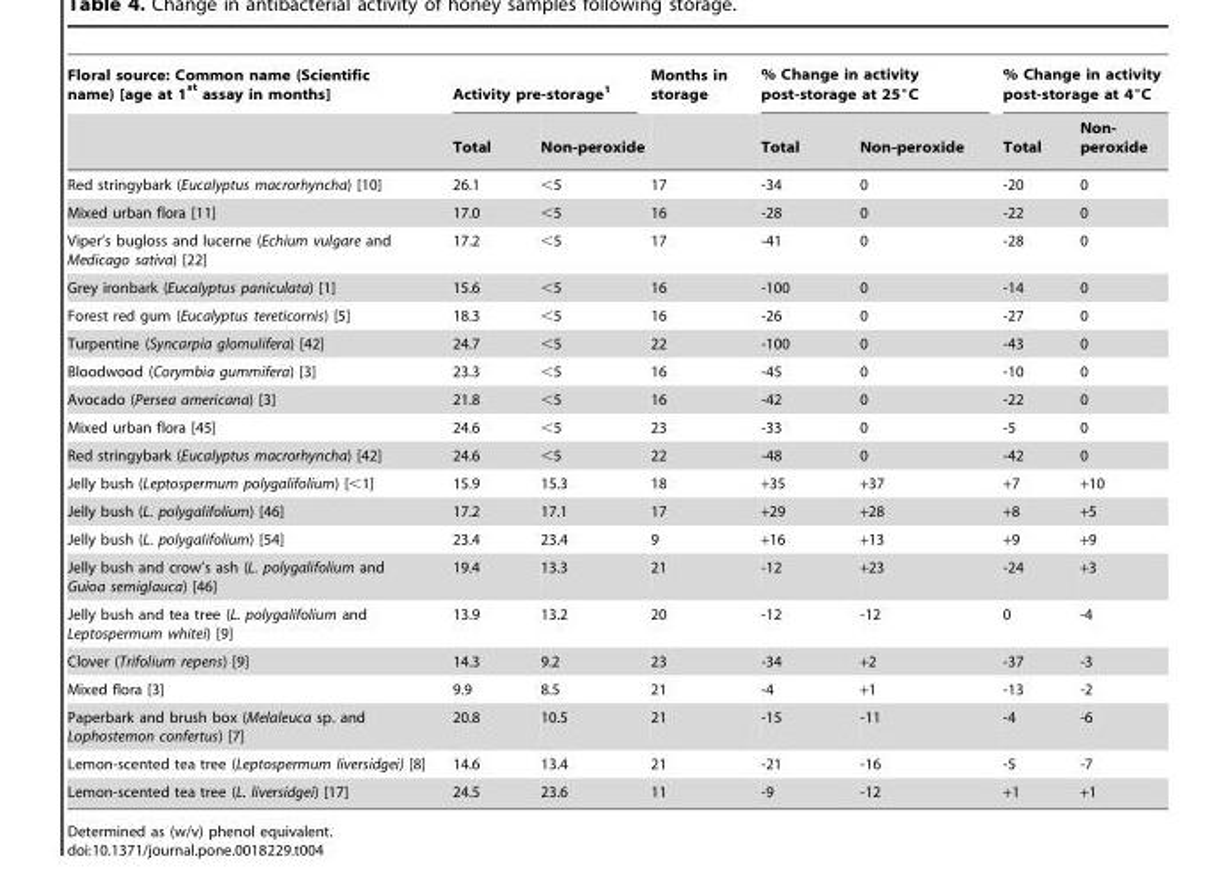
<table><thead><tr><td rowspan="2">Floral source: Common name (Scientific name) [age at 1 <sup>st</sup> assay in months]</td><td colspan="2">Activity pre-storage<sup>1</sup></td><td rowspan="2">Months in storage</td><td colspan="2">% Change in activity post-storage at 25°C</td><td colspan="2">% Change in activity post-storage at 4°C</td></tr><tr><td>Total</td><td>Non-peroxide</td><td>Total</td><td>Non-peroxide</td><td>Total</td><td>Non- peroxide</td></tr></thead><tbody><tr><td>Red stringybark (Eucalyptus macrorhyncha) [10]</td><td>26.1</td><td>&lt;5</td><td>17</td><td>-34</td><td>0</td><td>-20</td><td>0</td></tr><tr><td>Mixed urban flora [11]</td><td>17.0</td><td>&lt;5</td><td>16</td><td>-28</td><td>0</td><td>-22</td><td>0</td></tr><tr><td>Viper’s bugloss and lucerne (Echium vulgare and Medicago sativa) [22]</td><td>17.2</td><td>&lt;5</td><td>17</td><td>-41</td><td>0</td><td>-28</td><td>0</td></tr><tr><td>Grey ironbark (Eucalyptus paniculata) [1]</td><td>15.6</td><td>&lt;5</td><td>16</td><td>-100</td><td>0</td><td>-14</td><td>0</td></tr><tr><td>Forest red gum (Eucalyptus tereticornis) [5]</td><td>18.3</td><td>&lt;5</td><td>16</td><td>-26</td><td>0</td><td>-27</td><td>0</td></tr><tr><td>Turpentine (Syncarpia glomulifera) [42]</td><td>24.7</td><td>&lt;5</td><td>22</td><td>-100</td><td>0</td><td>-43</td><td>0</td></tr><tr><td>Bloodwood (Corymbia gummifera) [3]</td><td>23.3</td><td>&lt;5</td><td>16</td><td>-45</td><td>0</td><td>-10</td><td>0</td></tr><tr><td>Avocado (Persea americana) [3]</td><td>21.8</td><td>&lt;5</td><td>16</td><td>-42</td><td>0</td><td>-22</td><td>0</td></tr><tr><td>Mixed urban flora [45]</td><td>24.6</td><td>&lt;5</td><td>23</td><td>-33</td><td>0</td><td>-5</td><td>0</td></tr><tr><td>Red stringybark (Eucalyptus macrorhyncha) [42]</td><td>24.6</td><td>&lt;5</td><td>22</td><td>-48</td><td>0</td><td>-42</td><td>0</td></tr><tr><td>Jelly bush (Leptospermum polygalifolium) [&lt;1]</td><td>15.9</td><td>15.3</td><td>18</td><td>+35</td><td>+37</td><td>+7</td><td>+10</td></tr><tr><td>Jelly bush (L. polygalifolium) [46]</td><td>17.2</td><td>17.1</td><td>17</td><td>+29</td><td>+28</td><td>+8</td><td>+5</td></tr><tr><td>Jelly bush (L. polygalifolium) [54]</td><td>23.4</td><td>23.4</td><td>9</td><td>+16</td><td>+13</td><td>+9</td><td>+9</td></tr><tr><td>Jelly bush and crow’s ash (L. polygalifolium and Guioa semiglauca) [46]</td><td>19.4</td><td>13.3</td><td>21</td><td>-12</td><td>+23</td><td>-24</td><td>+3</td></tr><tr><td>Jelly bush and tea tree (L. polygalifolium and Leptospermum whitei) [9]</td><td>13.9</td><td>13.2</td><td>20</td><td>-12</td><td>-12</td><td>0</td><td>-4</td></tr><tr><td>Clover (Trifolium repens) [9]</td><td>14.3</td><td>9.2</td><td>23</td><td>-34</td><td>+2</td><td>-37</td><td>-3</td></tr><tr><td>Mixed flora [3]</td><td>9.9</td><td>8.5</td><td>21</td><td>-4</td><td>+1</td><td>-13</td><td>-2</td></tr><tr><td>Paperbark and brush box (Melaleuca sp. and Lophostemon confertus) [7]</td><td>20.8</td><td>10.5</td><td>21</td><td>-15</td><td>-11</td><td>-4</td><td>-6</td></tr><tr><td>Lemon-scented tea tree (Leptospermum liversidgei) [8]</td><td>14.6</td><td>13.4</td><td>21</td><td>-21</td><td>-16</td><td>-5</td><td>-7</td></tr><tr><td>Lemon-scented tea tree (L. liversidgei) [17]</td><td>24.5</td><td>23.6</td><td>11</td><td>-9</td><td>-12</td><td>+1</td><td>+1</td></tr></tbody></table>